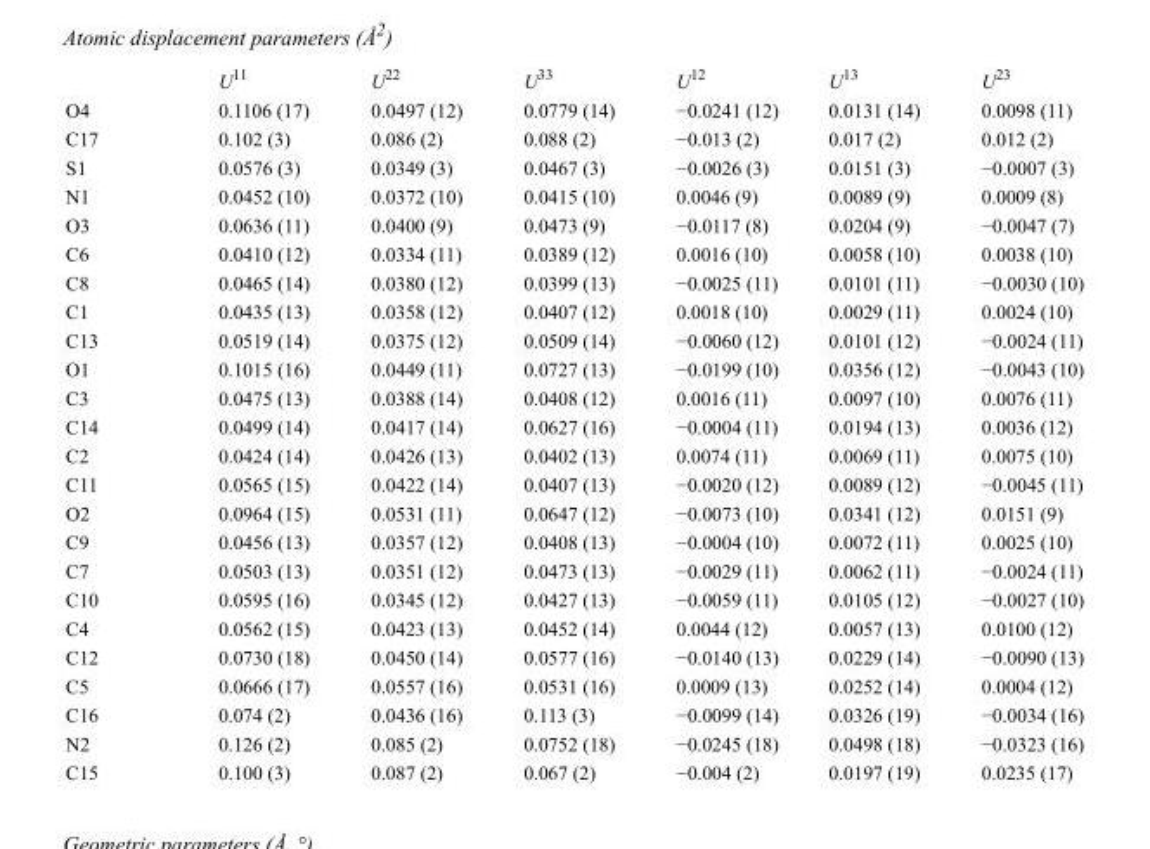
<table><thead><tr><td></td><td>U<sup>11</sup></td><td>U<sup>22</sup></td><td>U<sup>33</sup></td><td>U<sup>12</sup></td><td>U<sup>13</sup></td><td>U<sup>23</sup></td></tr></thead><tbody><tr><td>O4</td><td>0.1106 (17)</td><td>0.0497 (12)</td><td>0.0779 (14)</td><td>−0.0241 (12)</td><td>0.0131 (14)</td><td>0.0098 (11)</td></tr><tr><td>C17</td><td>0.102 (3)</td><td>0.086 (2)</td><td>0.088 (2)</td><td>−0.013 (2)</td><td>0.017 (2)</td><td>0.012 (2)</td></tr><tr><td>S1</td><td>0.0576 (3)</td><td>0.0349 (3)</td><td>0.0467 (3)</td><td>−0.0026 (3)</td><td>0.0151 (3)</td><td>−0.0007 (3)</td></tr><tr><td>N1</td><td>0.0452 (10)</td><td>0.0372 (10)</td><td>0.0415 (10)</td><td>0.0046 (9)</td><td>0.0089 (9)</td><td>0.0009 (8)</td></tr><tr><td>O3</td><td>0.0636 (11)</td><td>0.0400 (9)</td><td>0.0473 (9)</td><td>−0.0117 (8)</td><td>0.0204 (9)</td><td>−0.0047 (7)</td></tr><tr><td>C6</td><td>0.0410 (12)</td><td>0.0334 (11)</td><td>0.0389 (12)</td><td>0.0016 (10)</td><td>0.0058 (10)</td><td>0.0038 (10)</td></tr><tr><td>C8</td><td>0.0465 (14)</td><td>0.0380 (12)</td><td>0.0399 (13)</td><td>−0.0025 (11)</td><td>0.0101 (11)</td><td>−0.0030 (10)</td></tr><tr><td>C1</td><td>0.0435 (13)</td><td>0.0358 (12)</td><td>0.0407 (12)</td><td>0.0018 (10)</td><td>0.0029 (11)</td><td>0.0024 (10)</td></tr><tr><td>C13</td><td>0.0519 (14)</td><td>0.0375 (12)</td><td>0.0509 (14)</td><td>−0.0060 (12)</td><td>0.0101 (12)</td><td>−0.0024 (11)</td></tr><tr><td>O1</td><td>0.1015 (16)</td><td>0.0449 (11)</td><td>0.0727 (13)</td><td>−0.0199 (10)</td><td>0.0356 (12)</td><td>−0.0043 (10)</td></tr><tr><td>C3</td><td>0.0475 (13)</td><td>0.0388 (14)</td><td>0.0408 (12)</td><td>0.0016 (11)</td><td>0.0097 (10)</td><td>0.0076 (11)</td></tr><tr><td>C14</td><td>0.0499 (14)</td><td>0.0417 (14)</td><td>0.0627 (16)</td><td>−0.0004 (11)</td><td>0.0194 (13)</td><td>0.0036 (12)</td></tr><tr><td>C2</td><td>0.0424 (14)</td><td>0.0426 (13)</td><td>0.0402 (13)</td><td>0.0074 (11)</td><td>0.0069 (11)</td><td>0.0075 (10)</td></tr><tr><td>C11</td><td>0.0565 (15)</td><td>0.0422 (14)</td><td>0.0407 (13)</td><td>−0.0020 (12)</td><td>0.0089 (12)</td><td>−0.0045 (11)</td></tr><tr><td>O2</td><td>0.0964 (15)</td><td>0.0531 (11)</td><td>0.0647 (12)</td><td>−0.0073 (10)</td><td>0.0341 (12)</td><td>0.0151 (9)</td></tr><tr><td>C9</td><td>0.0456 (13)</td><td>0.0357 (12)</td><td>0.0408 (13)</td><td>−0.0004 (10)</td><td>0.0072 (11)</td><td>0.0025 (10)</td></tr><tr><td>C7</td><td>0.0503 (13)</td><td>0.0351 (12)</td><td>0.0473 (13)</td><td>−0.0029 (11)</td><td>0.0062 (11)</td><td>−0.0024 (11)</td></tr><tr><td>C10</td><td>0.0595 (16)</td><td>0.0345 (12)</td><td>0.0427 (13)</td><td>−0.0059 (11)</td><td>0.0105 (12)</td><td>−0.0027 (10)</td></tr><tr><td>C4</td><td>0.0562 (15)</td><td>0.0423 (13)</td><td>0.0452 (14)</td><td>0.0044 (12)</td><td>0.0057 (13)</td><td>0.0100 (12)</td></tr><tr><td>C12</td><td>0.0730 (18)</td><td>0.0450 (14)</td><td>0.0577 (16)</td><td>−0.0140 (13)</td><td>0.0229 (14)</td><td>−0.0090 (13)</td></tr><tr><td>C5</td><td>0.0666 (17)</td><td>0.0557 (16)</td><td>0.0531 (16)</td><td>0.0009 (13)</td><td>0.0252 (14)</td><td>0.0004 (12)</td></tr><tr><td>C16</td><td>0.074 (2)</td><td>0.0436 (16)</td><td>0.113 (3)</td><td>−0.0099 (14)</td><td>0.0326 (19)</td><td>−0.0034 (16)</td></tr><tr><td>N2</td><td>0.126 (2)</td><td>0.085 (2)</td><td>0.0752 (18)</td><td>−0.0245 (18)</td><td>0.0498 (18)</td><td>−0.0323 (16)</td></tr><tr><td>C15</td><td>0.100 (3)</td><td>0.087 (2)</td><td>0.067 (2)</td><td>−0.004 (2)</td><td>0.0197 (19)</td><td>0.0235 (17)</td></tr></tbody></table>